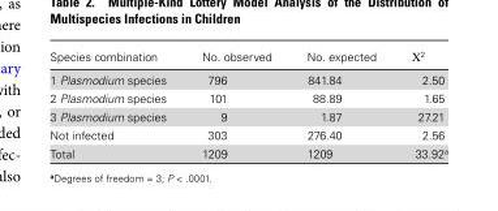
<table><thead><tr><td>Species combination</td><td>No. observed</td><td>No. expected</td><td>Χ<sup>2</sup></td></tr></thead><tbody><tr><td>1 Plasmodium species</td><td>796</td><td>841.84</td><td>2.50</td></tr><tr><td>2 Plasmodium species</td><td>101</td><td>88.89</td><td>1.65</td></tr><tr><td>3 Plasmodium species</td><td>9</td><td>1.87</td><td>27.21</td></tr><tr><td>Not infected</td><td>303</td><td>276.40</td><td>2.56</td></tr><tr><td>Total</td><td>1209</td><td>1209</td><td>33.92<sup>a</sup></td></tr></tbody></table>